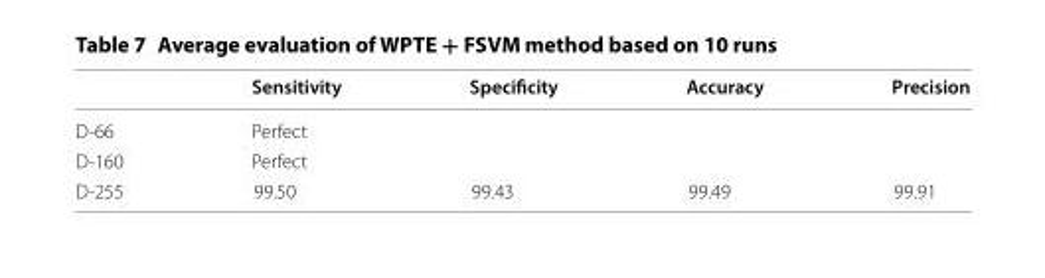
<table><thead><tr><td></td><td>Sensitivity</td><td>Specificity</td><td>Accuracy</td><td>Precision</td></tr></thead><tbody><tr><td>D‑66</td><td colspan="4">Perfect</td></tr><tr><td>D‑160</td><td colspan="4">Perfect</td></tr><tr><td>D‑255</td><td>99.50</td><td>99.43</td><td>99.49</td><td>99.91</td></tr></tbody></table>